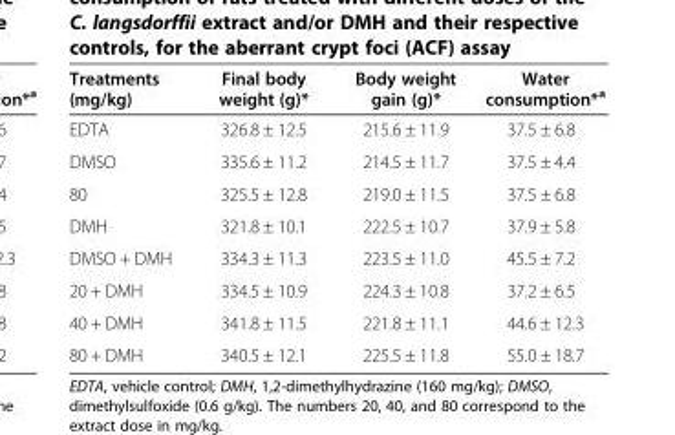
<table><thead><tr><td>Treatments (mg/kg)</td><td>Final body weight (g)*</td><td>Body weight gain (g)*</td><td>Water consumption*<sup>a</sup></td></tr></thead><tbody><tr><td>EDTA</td><td>326.8 ± 12.5</td><td>215.6 ± 11.9</td><td>37.5 ± 6.8</td></tr><tr><td>DMSO</td><td>335.6 ± 11.2</td><td>214.5 ± 11.7</td><td>37.5 ± 4.4</td></tr><tr><td>80</td><td>325.5 ± 12.8</td><td>219.0 ± 11.5</td><td>37.5 ± 6.8</td></tr><tr><td>DMH</td><td>321.8 ± 10.1</td><td>222.5 ± 10.7</td><td>37.9 ± 5.8</td></tr><tr><td>DMSO + DMH</td><td>334.3 ± 11.3</td><td>223.5 ± 11.0</td><td>45.5 ± 7.2</td></tr><tr><td>20 + DMH</td><td>334.5 ± 10.9</td><td>224.3 ± 10.8</td><td>37.2 ± 6.5</td></tr><tr><td>40 + DMH</td><td>341.8 ± 11.5</td><td>221.8 ± 11.1</td><td>44.6 ± 12.3</td></tr><tr><td>80 + DMH</td><td>340.5 ± 12.1</td><td>225.5 ± 11.8</td><td>55.0 ± 18.7</td></tr></tbody></table>